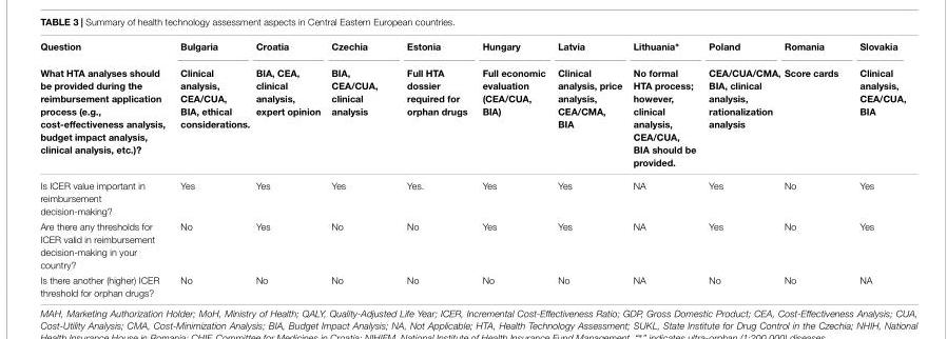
<table><thead><tr><td rowspan="2">Question What HTA analyses should be provided during the reimbursement application process (e.g., cost-effectiveness analysis, budget impact analysis, clinical analysis, etc.)?</td><td rowspan="2">Bulgaria Clinical analysis, CEA/CUA, BIA, ethical considerations.</td><td rowspan="2">Croatia BIA, CEA, clinical analysis, expert opinion</td><td rowspan="2">Czechia BIA, CEA/CUA, clinical analysis</td><td rowspan="2">Estonia Full HTA dossier required for orphan drugs</td><td rowspan="2">Hungary Full economic evaluation (CEA/CUA, BIA)</td><td rowspan="2">Latvia Clinical analysis, price analysis, CEA/CMA, BIA</td><td rowspan="2">Lithuania∗ No formal HTA process; however, clinical analysis, CEA/CUA, BIA should be provided.</td><td rowspan="2">Poland CEA/CUA/CMA, BIA, clinical analysis, rationalization analysis</td><td rowspan="2">Romania Score cards</td><td rowspan="2">Slovakia Clinical analysis, CEA/CUA, BIA</td></tr><tr></tr></thead><tbody><tr><td>Is ICER value important in reimbursement decision-making?</td><td>Yes</td><td>Yes</td><td>Yes</td><td>Yes.</td><td>Yes</td><td>Yes</td><td>NA</td><td>Yes</td><td>No</td><td>Yes</td></tr><tr><td>Are there any thresholds for ICER valid in reimbursement decision-making in your country?</td><td>No</td><td>Yes</td><td>No</td><td>No</td><td>Yes</td><td>Yes</td><td>NA</td><td>Yes</td><td>No</td><td>Yes</td></tr><tr><td>Is there another (higher) ICER threshold for orphan drugs?</td><td>No</td><td>No</td><td>No</td><td>No</td><td>No</td><td>No</td><td>NA</td><td>No</td><td>No</td><td>NA</td></tr></tbody></table>